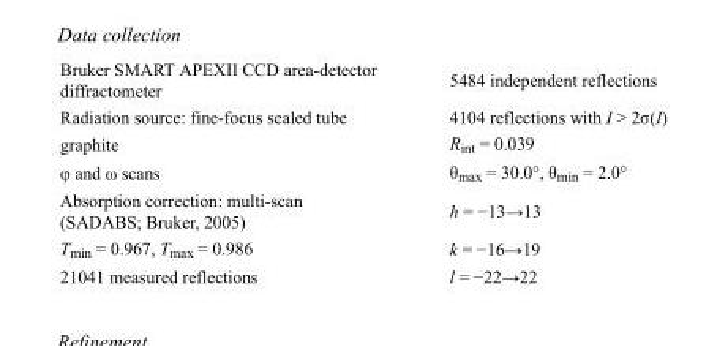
<table><tbody><tr><td>Bruker SMART APEXII CCD area-detector diffractometer</td><td>5484 independent reflections</td></tr><tr><td>Radiation source: fine-focus sealed tube</td><td>4104 reflections with I &gt; 2σ(I)</td></tr><tr><td>graphite</td><td>R<sub>int</sub> = 0.039</td></tr><tr><td>φ and ω scans</td><td>θ<sub>max</sub> = 30.0°, θ<sub>min</sub> = 2.0°</td></tr><tr><td>Absorption correction: multi-scan (SADABS; Bruker, 2005)</td><td>h = −13→13</td></tr><tr><td>T<sub>min</sub> = 0.967, T<sub>max</sub> = 0.986</td><td>k = −16→19</td></tr><tr><td>21041 measured reflections</td><td>l = −22→22</td></tr></tbody></table>